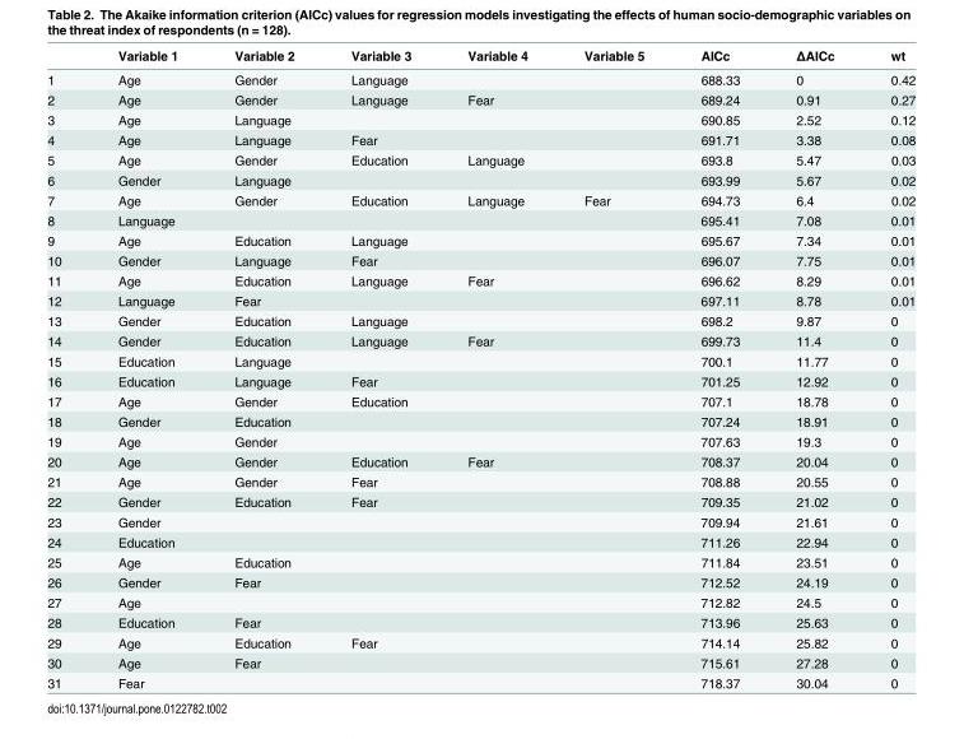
<table><thead><tr><td></td><td>Variable 1</td><td>Variable 2</td><td>Variable 3</td><td>Variable 4</td><td>Variable 5</td><td>AICc</td><td>ΔAICc</td><td>wt</td></tr></thead><tbody><tr><td>1</td><td>Age</td><td>Gender</td><td>Language</td><td></td><td></td><td>688.33</td><td>0</td><td>0.42</td></tr><tr><td>2</td><td>Age</td><td>Gender</td><td>Language</td><td>Fear</td><td></td><td>689.24</td><td>0.91</td><td>0.27</td></tr><tr><td>3</td><td>Age</td><td>Language</td><td></td><td></td><td></td><td>690.85</td><td>2.52</td><td>0.12</td></tr><tr><td>4</td><td>Age</td><td>Language</td><td>Fear</td><td></td><td></td><td>691.71</td><td>3.38</td><td>0.08</td></tr><tr><td>5</td><td>Age</td><td>Gender</td><td>Education</td><td>Language</td><td></td><td>693.8</td><td>5.47</td><td>0.03</td></tr><tr><td>6</td><td>Gender</td><td>Language</td><td></td><td></td><td></td><td>693.99</td><td>5.67</td><td>0.02</td></tr><tr><td>7</td><td>Age</td><td>Gender</td><td>Education</td><td>Language</td><td>Fear</td><td>694.73</td><td>6.4</td><td>0.02</td></tr><tr><td>8</td><td>Language</td><td></td><td></td><td></td><td></td><td>695.41</td><td>7.08</td><td>0.01</td></tr><tr><td>9</td><td>Age</td><td>Education</td><td>Language</td><td></td><td></td><td>695.67</td><td>7.34</td><td>0.01</td></tr><tr><td>10</td><td>Gender</td><td>Language</td><td>Fear</td><td></td><td></td><td>696.07</td><td>7.75</td><td>0.01</td></tr><tr><td>11</td><td>Age</td><td>Education</td><td>Language</td><td>Fear</td><td></td><td>696.62</td><td>8.29</td><td>0.01</td></tr><tr><td>12</td><td>Language</td><td>Fear</td><td></td><td></td><td></td><td>697.11</td><td>8.78</td><td>0.01</td></tr><tr><td>13</td><td>Gender</td><td>Education</td><td>Language</td><td></td><td></td><td>698.2</td><td>9.87</td><td>0</td></tr><tr><td>14</td><td>Gender</td><td>Education</td><td>Language</td><td>Fear</td><td></td><td>699.73</td><td>11.4</td><td>0</td></tr><tr><td>15</td><td>Education</td><td>Language</td><td></td><td></td><td></td><td>700.1</td><td>11.77</td><td>0</td></tr><tr><td>16</td><td>Education</td><td>Language</td><td>Fear</td><td></td><td></td><td>701.25</td><td>12.92</td><td>0</td></tr><tr><td>17</td><td>Age</td><td>Gender</td><td>Education</td><td></td><td></td><td>707.1</td><td>18.78</td><td>0</td></tr><tr><td>18</td><td>Gender</td><td>Education</td><td></td><td></td><td></td><td>707.24</td><td>18.91</td><td>0</td></tr><tr><td>19</td><td>Age</td><td>Gender</td><td></td><td></td><td></td><td>707.63</td><td>19.3</td><td>0</td></tr><tr><td>20</td><td>Age</td><td>Gender</td><td>Education</td><td>Fear</td><td></td><td>708.37</td><td>20.04</td><td>0</td></tr><tr><td>21</td><td>Age</td><td>Gender</td><td>Fear</td><td></td><td></td><td>708.88</td><td>20.55</td><td>0</td></tr><tr><td>22</td><td>Gender</td><td>Education</td><td>Fear</td><td></td><td></td><td>709.35</td><td>21.02</td><td>0</td></tr><tr><td>23</td><td>Gender</td><td></td><td></td><td></td><td></td><td>709.94</td><td>21.61</td><td>0</td></tr><tr><td>24</td><td>Education</td><td></td><td></td><td></td><td></td><td>711.26</td><td>22.94</td><td>0</td></tr><tr><td>25</td><td>Age</td><td>Education</td><td></td><td></td><td></td><td>711.84</td><td>23.51</td><td>0</td></tr><tr><td>26</td><td>Gender</td><td>Fear</td><td></td><td></td><td></td><td>712.52</td><td>24.19</td><td>0</td></tr><tr><td>27</td><td>Age</td><td></td><td></td><td></td><td></td><td>712.82</td><td>24.5</td><td>0</td></tr><tr><td>28</td><td>Education</td><td>Fear</td><td></td><td></td><td></td><td>713.96</td><td>25.63</td><td>0</td></tr><tr><td>29</td><td>Age</td><td>Education</td><td>Fear</td><td></td><td></td><td>714.14</td><td>25.82</td><td>0</td></tr><tr><td>30</td><td>Age</td><td>Fear</td><td></td><td></td><td></td><td>715.61</td><td>27.28</td><td>0</td></tr><tr><td>31</td><td>Fear</td><td></td><td></td><td></td><td></td><td>718.37</td><td>30.04</td><td>0</td></tr></tbody></table>